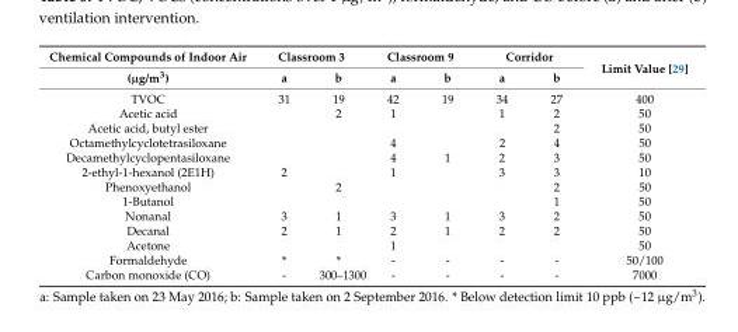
<table><thead><tr><td rowspan="2">Chemical Compounds of Indoor Air (µg/m<sup>3</sup>)</td><td colspan="2">Classroom 3</td><td colspan="2">Classroom 9</td><td colspan="2">Corridor</td><td rowspan="2">Limit Value [29]</td></tr><tr><td>a</td><td>b</td><td>a</td><td>b</td><td>a</td><td>b</td></tr></thead><tbody><tr><td>TVOC</td><td>31</td><td>19</td><td>42</td><td>19</td><td>34</td><td>27</td><td>400</td></tr><tr><td>Acetic acid</td><td></td><td>2</td><td>1</td><td></td><td>1</td><td>2</td><td>50</td></tr><tr><td>Acetic acid, butyl ester</td><td></td><td></td><td></td><td></td><td></td><td>2</td><td>50</td></tr><tr><td>Octamethylcyclotetrasiloxane</td><td></td><td></td><td>4</td><td></td><td>2</td><td>4</td><td>50</td></tr><tr><td>Decamethylcyclopentasiloxane</td><td></td><td></td><td>4</td><td>1</td><td>2</td><td>3</td><td>50</td></tr><tr><td>2-ethyl-1-hexanol (2E1H)</td><td>2</td><td></td><td>1</td><td></td><td>3</td><td>3</td><td>10</td></tr><tr><td>Phenoxyethanol</td><td></td><td>2</td><td></td><td></td><td></td><td>2</td><td>50</td></tr><tr><td>1-Butanol</td><td></td><td></td><td></td><td></td><td></td><td>1</td><td>50</td></tr><tr><td>Nonanal</td><td>3</td><td>1</td><td>3</td><td>1</td><td>3</td><td>2</td><td>50</td></tr><tr><td>Decanal</td><td>2</td><td>1</td><td>2</td><td>1</td><td>2</td><td>2</td><td>50</td></tr><tr><td>Acetone</td><td></td><td></td><td>1</td><td></td><td></td><td></td><td>50</td></tr><tr><td>Formaldehyde</td><td>*</td><td>*</td><td>-</td><td>-</td><td>-</td><td>-</td><td>50/100</td></tr><tr><td>Carbon monoxide (CO)</td><td>-</td><td>300–1300</td><td>-</td><td>-</td><td>-</td><td>-</td><td>7000</td></tr></tbody></table>